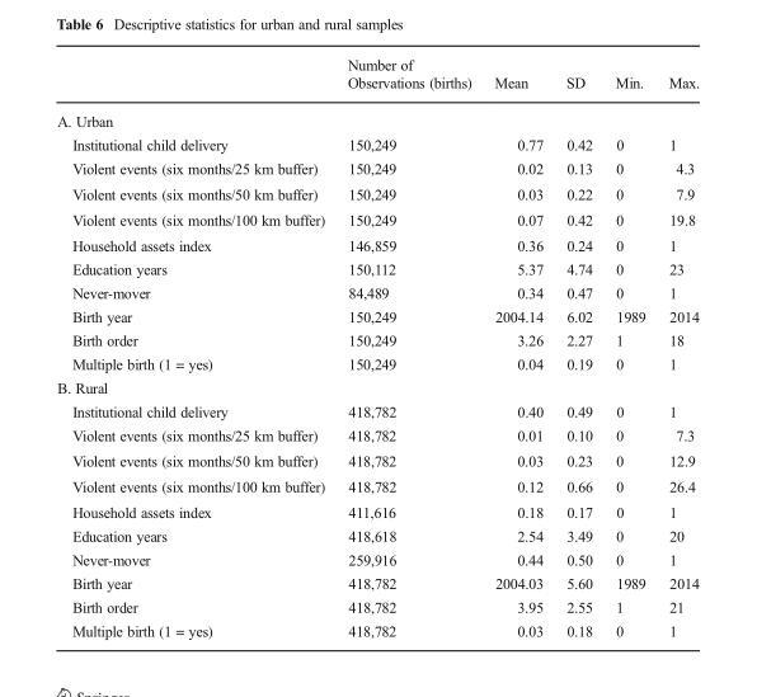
<table><thead><tr><td></td><td>Number of Observations (births)</td><td>Mean</td><td>SD</td><td>Min.</td><td>Max.</td></tr></thead><tbody><tr><td colspan="6">A. Urban</td></tr><tr><td>Institutional child delivery</td><td>150,249</td><td>0.77</td><td>0.42</td><td>0</td><td>1</td></tr><tr><td>Violent events (six months/25 km buffer)</td><td>150,249</td><td>0.02</td><td>0.13</td><td>0</td><td>4.3</td></tr><tr><td>Violent events (six months/50 km buffer)</td><td>150,249</td><td>0.03</td><td>0.22</td><td>0</td><td>7.9</td></tr><tr><td>Violent events (six months/100 km buffer)</td><td>150,249</td><td>0.07</td><td>0.42</td><td>0</td><td>19.8</td></tr><tr><td>Household assets index</td><td>146,859</td><td>0.36</td><td>0.24</td><td>0</td><td>1</td></tr><tr><td>Education years</td><td>150,112</td><td>5.37</td><td>4.74</td><td>0</td><td>23</td></tr><tr><td>Never-mover</td><td>84,489</td><td>0.34</td><td>0.47</td><td>0</td><td>1</td></tr><tr><td>Birth year</td><td>150,249</td><td>2004.14</td><td>6.02</td><td>1989</td><td>2014</td></tr><tr><td>Birth order</td><td>150,249</td><td>3.26</td><td>2.27</td><td>1</td><td>18</td></tr><tr><td>Multiple birth (1 = yes)</td><td>150,249</td><td>0.04</td><td>0.19</td><td>0</td><td>1</td></tr><tr><td colspan="6">B. Rural</td></tr><tr><td>Institutional child delivery</td><td>418,782</td><td>0.40</td><td>0.49</td><td>0</td><td>1</td></tr><tr><td>Violent events (six months/25 km buffer)</td><td>418,782</td><td>0.01</td><td>0.10</td><td>0</td><td>7.3</td></tr><tr><td>Violent events (six months/50 km buffer)</td><td>418,782</td><td>0.03</td><td>0.23</td><td>0</td><td>12.9</td></tr><tr><td>Violent events (six months/100 km buffer)</td><td>418,782</td><td>0.12</td><td>0.66</td><td>0</td><td>26.4</td></tr><tr><td>Household assets index</td><td>411,616</td><td>0.18</td><td>0.17</td><td>0</td><td>1</td></tr><tr><td>Education years</td><td>418,618</td><td>2.54</td><td>3.49</td><td>0</td><td>20</td></tr><tr><td>Never-mover</td><td>259,916</td><td>0.44</td><td>0.50</td><td>0</td><td>1</td></tr><tr><td>Birth year</td><td>418,782</td><td>2004.03</td><td>5.60</td><td>1989</td><td>2014</td></tr><tr><td>Birth order</td><td>418,782</td><td>3.95</td><td>2.55</td><td>1</td><td>21</td></tr><tr><td>Multiple birth (1 = yes)</td><td>418,782</td><td>0.03</td><td>0.18</td><td>0</td><td>1</td></tr></tbody></table>